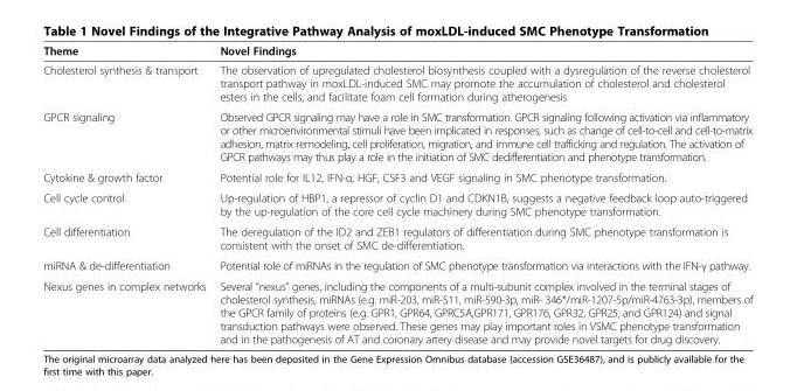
<table><thead><tr><td>Theme</td><td>Novel Findings</td></tr></thead><tbody><tr><td>Cholesterol synthesis &amp; transport</td><td>The observation of upregulated cholesterol biosynthesis coupled with a dysregulation of the reverse cholesterol transport pathway in moxLDL-induced SMC may promote the accumulation of cholesterol and cholesterol esters in the cells, and facilitate foam cell formation during atherogenesis</td></tr><tr><td>GPCR signaling</td><td>Observed GPCR signaling may have a role in SMC transformation. GPCR signaling following activation via inflammatory or other microenvironmental stimuli have been implicated in responses, such as change of cell-to-cell and cell-to-matrix adhesion, matrix remodeling, cell proliferation, migration, and immune cell trafficking and regulation. The activation of GPCR pathways may thus play a role in the initiation of SMC dedifferentiation and phenotype transformation.</td></tr><tr><td>Cytokine &amp; growth factor</td><td>Potential role for IL12, IFN-α, HGF, CSF3 and VEGF signaling in SMC phenotype transformation.</td></tr><tr><td>Cell cycle control</td><td>Up-regulation of HBP1, a repressor of cyclin D1 and CDKN1B, suggests a negative feedback loop auto-triggered by the up-regulation of the core cell cycle machinery during SMC phenotype transformation.</td></tr><tr><td>Cell differentiation</td><td>The deregulation of the ID2 and ZEB1 regulators of differentiation during SMC phenotype transformation is consistent with the onset of SMC de-differentiation.</td></tr><tr><td>miRNA &amp; de-differentiation</td><td>Potential role of miRNAs in the regulation of SMC phenotype transformation via interactions with the IFN-γ pathway.</td></tr><tr><td>Nexus genes in complex networks</td><td>Several “nexus” genes, including the components of a multi-subunit complex involved in the terminal stages of cholesterol synthesis, miRNAs (e.g. miR-203, miR-511, miR-590-3p, miR- 346*/miR-1207-5p/miR-4763-3p), members of the GPCR family of proteins (e.g. GPR1, GPR64, GPRC5A,GPR171, GPR176, GPR32, GPR25, and GPR124) and signal transduction pathways were observed. These genes may play important roles in VSMC phenotype transformation and in the pathogenesis of AT and coronary artery disease and may provide novel targets for drug discovery.</td></tr></tbody></table>